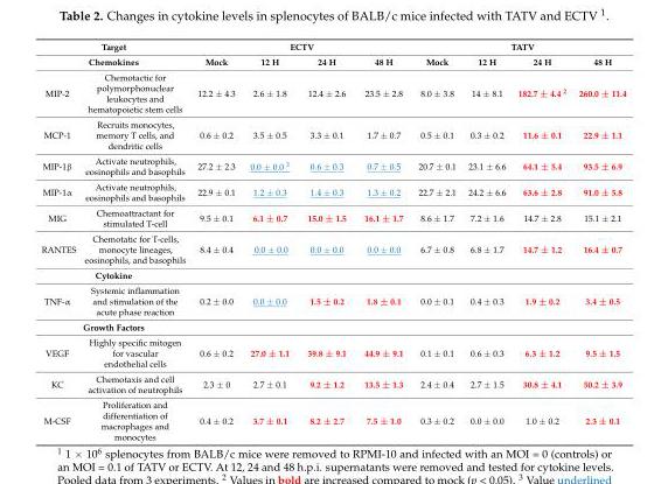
<table><thead><tr><td rowspan="2" colspan="2">Target Chemokines</td><td colspan="4">ECTV</td><td colspan="4">TATV</td></tr><tr><td rowspan="2">Mock 12.2 ± 4.3</td><td rowspan="2">12 H 2.6 ± 1.8</td><td rowspan="2">24 H 12.4 ± 2.6</td><td rowspan="2">48 H 23.5 ± 2.8</td><td rowspan="2">Mock 8.0 ± 3.8</td><td rowspan="2">12 H 14 ± 8.1</td><td rowspan="2">24 H 182.7 ± 4.4 <sup>2</sup></td><td rowspan="2">48 H 260.0 ± 11.4</td></tr><tr><td>MIP-2</td><td>Chemotactic for polymorphonuclear leukocytes and hematopoietic stem cells</td></tr></thead><tbody><tr><td>MCP-1</td><td>Recruits monocytes, memory T cells, and dendritic cells</td><td>0.6 ± 0.2</td><td>3.5 ± 0.5</td><td>3.3 ± 0.1</td><td>1.7 ± 0.7</td><td>0.5 ± 0.1</td><td>0.3 ± 0.2</td><td>11.6 ± 0.1</td><td>22.9 ± 1.1</td></tr><tr><td>MIP-1β</td><td>Activate neutrophils, eosinophils and basophils</td><td>27.2 ± 2.3</td><td>0.0 ± 0.0 <sup>3</sup></td><td>0.6 ± 0.3</td><td>0.7 ± 0.5</td><td>20.7 ± 0.1</td><td>23.1 ± 6.6</td><td>64.1 ± 5.4</td><td>93.5 ± 6.9</td></tr><tr><td>MIP-1α</td><td>Activate neutrophils, eosinophils and basophils</td><td>22.9 ± 0.1</td><td>1.2 ± 0.3</td><td>1.4 ± 0.3</td><td>1.3 ± 0.2</td><td>22.7 ± 2.1</td><td>24.2 ± 6.6</td><td>63.6 ± 2.8</td><td>91.0 ± 5.8</td></tr><tr><td>MIG</td><td>Chemoattractant for stimulated T-cell</td><td>9.5 ± 0.1</td><td>6.1 ± 0.7</td><td>15.0 ± 1.5</td><td>16.1 ± 1.7</td><td>8.6 ± 1.7</td><td>7.2 ± 1.6</td><td>14.7 ± 2.8</td><td>15.1 ± 2.1</td></tr><tr><td>RANTES</td><td>Chemotatic for T-cells, monocyte lineages, eosinophils, and basophils</td><td>8.4 ± 0.4</td><td>0.0 ± 0.0</td><td>0.0 ± 0.0</td><td>0.0 ± 0.0</td><td>6.7 ± 0.8</td><td>6.8 ± 1.7</td><td>14.7 ± 1.2</td><td>16.4 ± 0.7</td></tr><tr><td colspan="10">Cytokine</td></tr><tr><td>TNF-α</td><td>Systemic inflammation and stimulation of the acute phase reaction</td><td>0.2 ± 0.0</td><td>0.0 ± 0.0</td><td>1.5 ± 0.2</td><td>1.8 ± 0.1</td><td>0.0 ± 0.1</td><td>0.4 ± 0.3</td><td>1.9 ± 0.2</td><td>3.4 ± 0.5</td></tr><tr><td colspan="10">Growth Factors</td></tr><tr><td>VEGF</td><td>Highly specific mitogen for vascular endothelial cells</td><td>0.6 ± 0.2</td><td>27.0 ± 1.1</td><td>39.8 ± 9.1</td><td>44.9 ± 9.1</td><td>0.1 ± 0.1</td><td>0.6 ± 0.3</td><td>6.3 ± 1.2</td><td>9.5 ± 1.5</td></tr><tr><td>KC</td><td>Chemotaxis and cell activation of neutrophils</td><td>2.3 ± 0</td><td>2.7 ± 0.1</td><td>9.2 ± 1.2</td><td>13.5 ± 1.3</td><td>2.4 ± 0.4</td><td>2.7 ± 1.5</td><td>30.8 ± 4.1</td><td>50.2 ± 3.9</td></tr><tr><td>M-CSF</td><td>Proliferation and differentiation of macrophages and monocytes</td><td>0.4 ± 0.2</td><td>3.7 ± 0.1</td><td>8.2 ± 2.7</td><td>7.5 ± 1.0</td><td>0.3 ± 0.2</td><td>0.0 ± 0.0</td><td>1.0 ± 0.2</td><td>2.3 ± 0.1</td></tr></tbody></table>